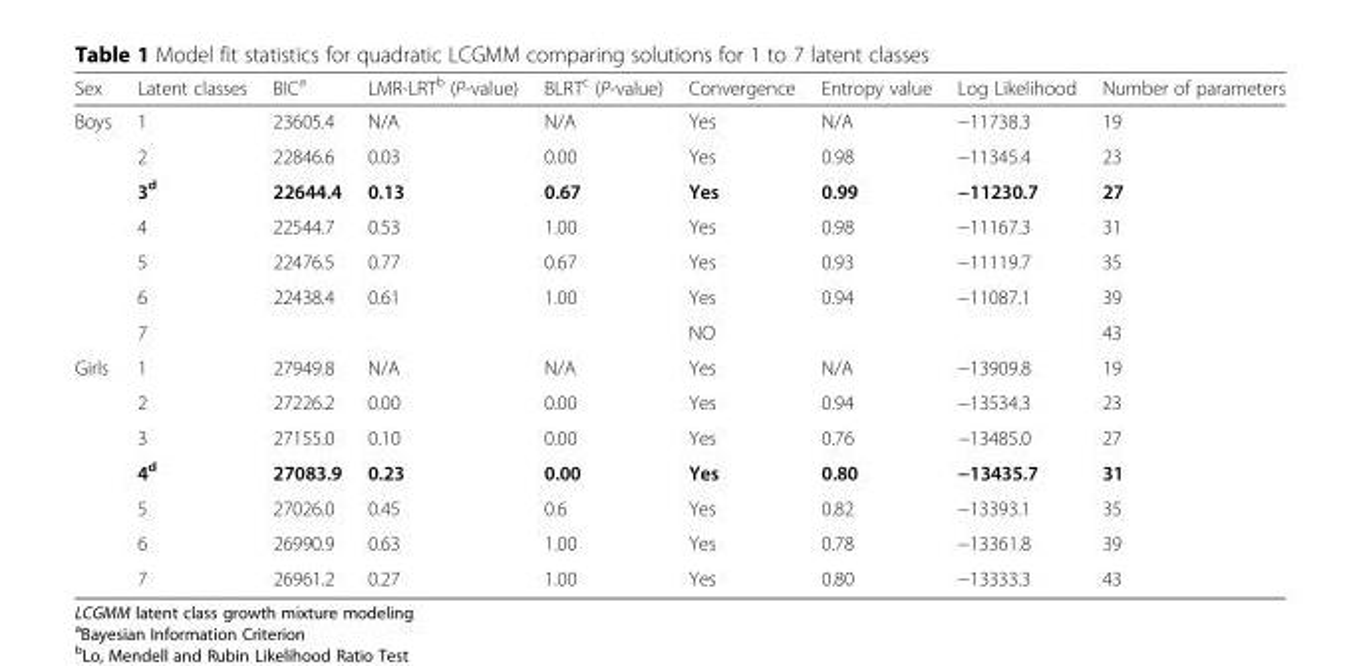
<table><thead><tr><td>Sex</td><td>Latent classes</td><td>BIC<sup>a</sup></td><td>LMR-LRT<sup>b</sup> (P-value)</td><td>BLRT<sup>c</sup> (P-value)</td><td>Convergence</td><td>Entropy value</td><td>Log Likelihood</td><td>Number of parameters</td></tr></thead><tbody><tr><td rowspan="7">Boys</td><td>1</td><td>23605.4</td><td>N/A</td><td>N/A</td><td>Yes</td><td>N/A</td><td>−11738.3</td><td>19</td></tr><tr><td>2</td><td>22846.6</td><td>0.03</td><td>0.00</td><td>Yes</td><td>0.98</td><td>−11345.4</td><td>23</td></tr><tr><td>3<sup>d</sup></td><td>22644.4</td><td>0.13</td><td>0.67</td><td>Yes</td><td>0.99</td><td>−11230.7</td><td>27</td></tr><tr><td>4</td><td>22544.7</td><td>0.53</td><td>1.00</td><td>Yes</td><td>0.98</td><td>−11167.3</td><td>31</td></tr><tr><td>5</td><td>22476.5</td><td>0.77</td><td>0.67</td><td>Yes</td><td>0.93</td><td>−11119.7</td><td>35</td></tr><tr><td>6</td><td>22438.4</td><td>0.61</td><td>1.00</td><td>Yes</td><td>0.94</td><td>−11087.1</td><td>39</td></tr><tr><td>7</td><td></td><td></td><td></td><td>NO</td><td></td><td></td><td>43</td></tr><tr><td rowspan="7">Girls</td><td>1</td><td>27949.8</td><td>N/A</td><td>N/A</td><td>Yes</td><td>N/A</td><td>−13909.8</td><td>19</td></tr><tr><td>2</td><td>27226.2</td><td>0.00</td><td>0.00</td><td>Yes</td><td>0.94</td><td>−13534.3</td><td>23</td></tr><tr><td>3</td><td>27155.0</td><td>0.10</td><td>0.00</td><td>Yes</td><td>0.76</td><td>−13485.0</td><td>27</td></tr><tr><td>4<sup>d</sup></td><td>27083.9</td><td>0.23</td><td>0.00</td><td>Yes</td><td>0.80</td><td>−13435.7</td><td>31</td></tr><tr><td>5</td><td>27026.0</td><td>0.45</td><td>0.6</td><td>Yes</td><td>0.82</td><td>−13393.1</td><td>35</td></tr><tr><td>6</td><td>26990.9</td><td>0.63</td><td>1.00</td><td>Yes</td><td>0.78</td><td>−13361.8</td><td>39</td></tr><tr><td>7</td><td>26961.2</td><td>0.27</td><td>1.00</td><td>Yes</td><td>0.80</td><td>−13333.3</td><td>43</td></tr></tbody></table>